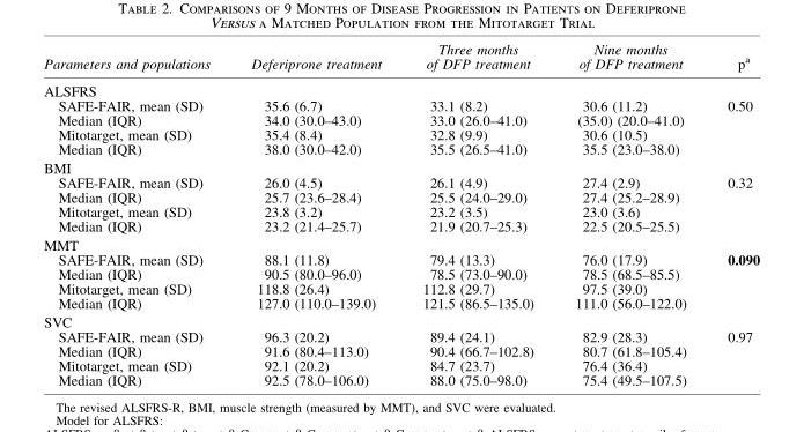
<table><thead><tr><td>Parameters and populations</td><td>Deferiprone treatment</td><td>Three months of DFP treatment</td><td>Nine months of DFP treatment</td><td>p<sup>a</sup></td></tr></thead><tbody><tr><td colspan="5">ALSFRS</td></tr><tr><td>SAFE-FAIR, mean (SD)</td><td>35.6 (6.7)</td><td>33.1 (8.2)</td><td>30.6 (11.2)</td><td rowspan="2">0.50</td></tr><tr><td>Median (IQR)</td><td>34.0 (30.0–43.0)</td><td>33.0 (26.0–41.0)</td><td>(35.0) (20.0–41.0)</td></tr><tr><td>Mitotarget, mean (SD)</td><td>35.4 (8.4)</td><td>32.8 (9.9)</td><td>30.6 (10.5)</td><td></td></tr><tr><td>Median (IQR)</td><td>38.0 (30.0–42.0)</td><td>35.5 (26.5–41.0)</td><td>35.5 (23.0–38.0)</td><td></td></tr><tr><td colspan="5">BMI</td></tr><tr><td>SAFE-FAIR, mean (SD)</td><td>26.0 (4.5)</td><td>26.1 (4.9)</td><td>27.4 (2.9)</td><td rowspan="2">0.32</td></tr><tr><td>Median (IQR)</td><td>25.7 (23.6–28.4)</td><td>25.5 (24.0–29.0)</td><td>27.4 (25.2–28.9)</td></tr><tr><td>Mitotarget, mean (SD)</td><td>23.8 (3.2)</td><td>23.2 (3.5)</td><td>23.0 (3.6)</td><td></td></tr><tr><td>Median (IQR)</td><td>23.2 (21.4–25.7)</td><td>21.9 (20.7–25.3)</td><td>22.5 (20.5–25.5)</td><td></td></tr><tr><td colspan="5">MMT</td></tr><tr><td>SAFE-FAIR, mean (SD)</td><td>88.1 (11.8)</td><td>79.4 (13.3)</td><td>76.0 (17.9)</td><td rowspan="2">0.090</td></tr><tr><td>Median (IQR)</td><td>90.5 (80.0–96.0)</td><td>78.5 (73.0–90.0)</td><td>78.5 (68.5–85.5)</td></tr><tr><td>Mitotarget, mean (SD)</td><td>118.8 (26.4)</td><td>112.8 (29.7)</td><td>97.5 (39.0)</td><td></td></tr><tr><td>Median (IQR)</td><td>127.0 (110.0–139.0)</td><td>121.5 (86.5–135.0)</td><td>111.0 (56.0–122.0)</td><td></td></tr><tr><td colspan="5">SVC</td></tr><tr><td>SAFE-FAIR, mean (SD)</td><td>96.3 (20.2)</td><td>89.4 (24.1)</td><td>82.9 (28.3)</td><td rowspan="2">0.97</td></tr><tr><td>Median (IQR)</td><td>91.6 (80.4–113.0)</td><td>90.4 (66.7–102.8)</td><td>80.7 (61.8–105.4)</td></tr><tr><td>Mitotarget, mean (SD)</td><td>92.1 (20.2)</td><td>84.7 (23.7)</td><td>76.4 (36.4)</td><td></td></tr><tr><td>Median (IQR)</td><td>92.5 (78.0–106.0)</td><td>88.0 (75.0–98.0)</td><td>75.4 (49.5–107.5)</td><td></td></tr></tbody></table>